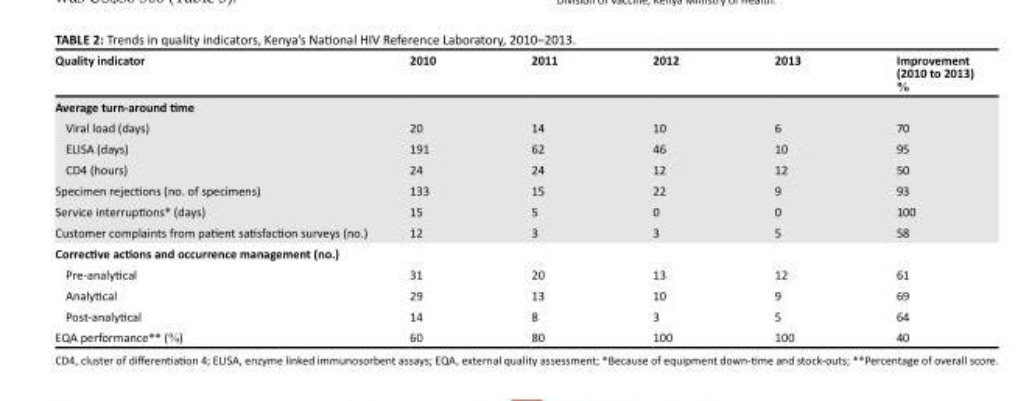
<table><thead><tr><td>Quality indicator</td><td>2010</td><td>2011</td><td>2012</td><td>2013</td><td>Improvement (2010 to 2013) %</td></tr></thead><tbody><tr><td colspan="6">Average turn-around time</td></tr><tr><td>Viral load (days)</td><td>20</td><td>14</td><td>10</td><td>6</td><td>70</td></tr><tr><td>ELISA (days)</td><td>191</td><td>62</td><td>46</td><td>10</td><td>95</td></tr><tr><td>CD4 (hours)</td><td>24</td><td>24</td><td>12</td><td>12</td><td>50</td></tr><tr><td>Specimen rejections (no. of specimens)</td><td>133</td><td>15</td><td>22</td><td>9</td><td>93</td></tr><tr><td>Service interruptions* (days)</td><td>15</td><td>5</td><td>0</td><td>0</td><td>100</td></tr><tr><td>Customer complaints from patient satisfaction surveys (no.)</td><td>12</td><td>3</td><td>3</td><td>5</td><td>58</td></tr><tr><td colspan="6">Corrective actions and occurrence management (no.)</td></tr><tr><td>Pre-analytical</td><td>31</td><td>20</td><td>13</td><td>12</td><td>61</td></tr><tr><td>Analytical</td><td>29</td><td>13</td><td>10</td><td>9</td><td>69</td></tr><tr><td>Post-analytical</td><td>14</td><td>8</td><td>3</td><td>5</td><td>64</td></tr><tr><td>EQA performance** (%)</td><td>60</td><td>80</td><td>100</td><td>100</td><td>40</td></tr></tbody></table>